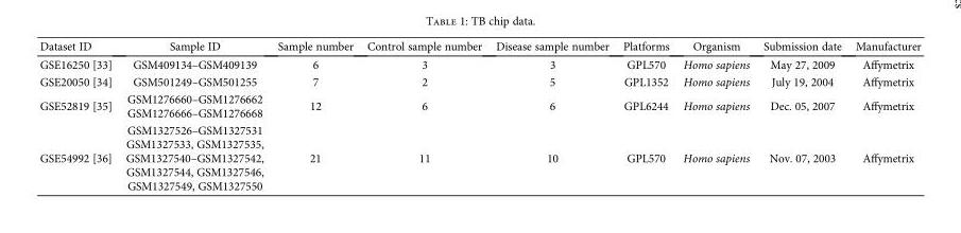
<table><thead><tr><td>Dataset ID</td><td>Sample ID</td><td>Sample number</td><td>Control sample number</td><td>Disease sample number</td><td>Platforms</td><td>Organism</td><td>Submission date</td><td>Manufacturer</td></tr></thead><tbody><tr><td>GSE16250 [33]</td><td>GSM409134–GSM409139</td><td>6</td><td>3</td><td>3</td><td>GPL570</td><td>Homo sapiens</td><td>May 27, 2009</td><td>Affymetrix</td></tr><tr><td>GSE20050 [34]</td><td>GSM501249–GSM501255</td><td>7</td><td>2</td><td>5</td><td>GPL1352</td><td>Homo sapiens</td><td>July 19, 2004</td><td>Affymetrix</td></tr><tr><td>GSE52819 [35]</td><td>GSM1276660–GSM1276662 GSM1276666–GSM1276668</td><td>12</td><td>6</td><td>6</td><td>GPL6244</td><td>Homo sapiens</td><td>Dec. 05, 2007</td><td>Affymetrix</td></tr><tr><td>GSE54992 [36]</td><td>GSM1327526–GSM1327531 GSM1327533, GSM1327535, GSM1327540–GSM1327542, GSM1327544, GSM1327546, GSM1327549, GSM1327550</td><td>21</td><td>11</td><td>10</td><td>GPL570</td><td>Homo sapiens</td><td>Nov. 07, 2003</td><td>Affymetrix</td></tr></tbody></table>